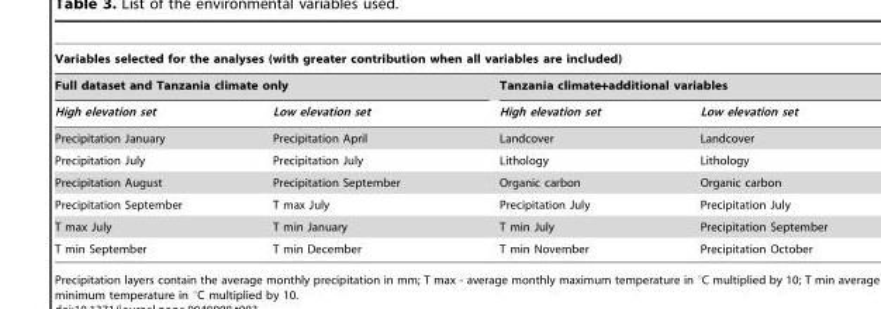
<table><thead><tr><td colspan="4">Variables selected for the analyses (with greater contribution when all variables are included)</td></tr><tr><td colspan="2">Full dataset and Tanzania climate only</td><td colspan="2">Tanzania climate+additional variables</td></tr><tr><td>High elevation set</td><td>Low elevation set</td><td>High elevation set</td><td>Low elevation set</td></tr></thead><tbody><tr><td>Precipitation January</td><td>Precipitation April</td><td>Landcover</td><td>Landcover</td></tr><tr><td>Precipitation July</td><td>Precipitation July</td><td>Lithology</td><td>Lithology</td></tr><tr><td>Precipitation August</td><td>Precipitation September</td><td>Organic carbon</td><td>Organic carbon</td></tr><tr><td>Precipitation September</td><td>T max July</td><td>Precipitation July</td><td>Precipitation July</td></tr><tr><td>T max July</td><td>T min January</td><td>T min July</td><td>Precipitation September</td></tr><tr><td>T min September</td><td>T min December</td><td>T min November</td><td>Precipitation October</td></tr></tbody></table>